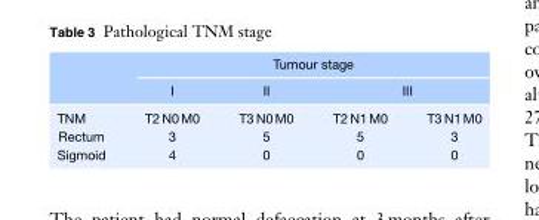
<table><thead><tr><td rowspan="3">TNM</td><td colspan="4">Tumour stage</td></tr><tr><td rowspan="2">I T2 N0 M0</td><td rowspan="2">II T3 N0 M0</td><td colspan="2">III</td></tr><tr><td>T2 N1 M0</td><td>T3 N1 M0</td></tr></thead><tbody><tr><td>Rectum</td><td>3</td><td>5</td><td>5</td><td>3</td></tr><tr><td>Sigmoid</td><td>4</td><td>0</td><td>0</td><td>0</td></tr></tbody></table>